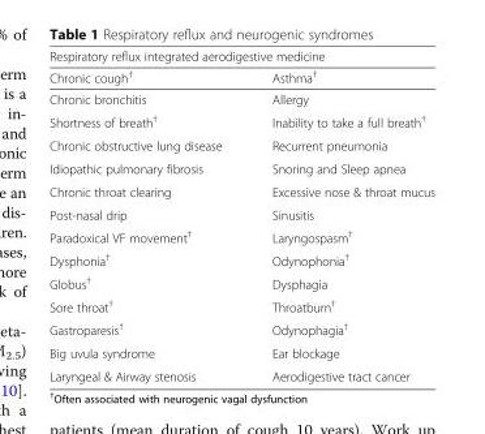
<table><thead><tr><td colspan="2">Respiratory reflux integrated aerodigestive medicine</td></tr><tr><td>Chronic cough<sup>†</sup></td><td>Asthma<sup>†</sup></td></tr></thead><tbody><tr><td>Chronic bronchitis</td><td>Allergy</td></tr><tr><td>Shortness of breath<sup>†</sup></td><td>Inability to take a full breath<sup>†</sup></td></tr><tr><td>Chronic obstructive lung disease</td><td>Recurrent pneumonia</td></tr><tr><td>Idiopathic pulmonary fibrosis</td><td>Snoring and Sleep apnea</td></tr><tr><td>Chronic throat clearing</td><td>Excessive nose &amp; throat mucus</td></tr><tr><td>Post-nasal drip</td><td>Sinusitis</td></tr><tr><td>Paradoxical VF movement<sup>†</sup></td><td>Laryngospasm<sup>†</sup></td></tr><tr><td>Dysphonia<sup>†</sup></td><td>Odynophonia<sup>†</sup></td></tr><tr><td>Globus<sup>†</sup></td><td>Dysphagia</td></tr><tr><td>Sore throat<sup>†</sup></td><td>Throatburn<sup>†</sup></td></tr><tr><td>Gastroparesis<sup>†</sup></td><td>Odynophagia<sup>†</sup></td></tr><tr><td>Big uvula syndrome</td><td>Ear blockage</td></tr><tr><td>Laryngeal &amp; Airway stenosis</td><td>Aerodigestive tract cancer</td></tr></tbody></table>